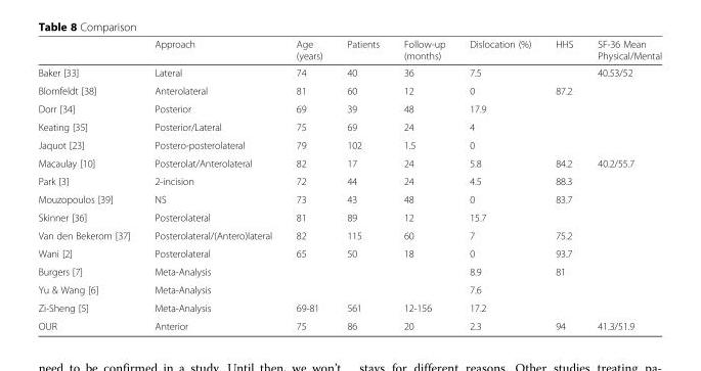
<table><thead><tr><td></td><td>Approach</td><td>Age (years)</td><td>Patients</td><td>Follow-up (months)</td><td>Dislocation (%)</td><td>HHS</td><td>SF-36 Mean Physical/Mental</td></tr></thead><tbody><tr><td>Baker [33]</td><td>Lateral</td><td>74</td><td>40</td><td>36</td><td>7.5</td><td></td><td>40.53/52</td></tr><tr><td>Blomfeldt [38]</td><td>Anterolateral</td><td>81</td><td>60</td><td>12</td><td>0</td><td>87.2</td><td></td></tr><tr><td>Dorr [34]</td><td>Posterior</td><td>69</td><td>39</td><td>48</td><td>17.9</td><td></td><td></td></tr><tr><td>Keating [35]</td><td>Posterior/Lateral</td><td>75</td><td>69</td><td>24</td><td>4</td><td></td><td></td></tr><tr><td>Jaquot [23]</td><td>Postero-posterolateral</td><td>79</td><td>102</td><td>1.5</td><td>0</td><td></td><td></td></tr><tr><td>Macaulay [10]</td><td>Posterolat/Anterolateral</td><td>82</td><td>17</td><td>24</td><td>5.8</td><td>84.2</td><td>40.2/55.7</td></tr><tr><td>Park [3]</td><td>2-incision</td><td>72</td><td>44</td><td>24</td><td>4.5</td><td>88.3</td><td></td></tr><tr><td>Mouzopoulos [39]</td><td>NS</td><td>73</td><td>43</td><td>48</td><td>0</td><td>83.7</td><td></td></tr><tr><td>Skinner [36]</td><td>Posterolateral</td><td>81</td><td>89</td><td>12</td><td>15.7</td><td></td><td></td></tr><tr><td>Van den Bekerom [37]</td><td>Posterolateral/(Antero)lateral</td><td>82</td><td>115</td><td>60</td><td>7</td><td>75.2</td><td></td></tr><tr><td>Wani [2]</td><td>Posterolateral</td><td>65</td><td>50</td><td>18</td><td>0</td><td>93.7</td><td></td></tr><tr><td>Burgers [7]</td><td>Meta-Analysis</td><td></td><td></td><td></td><td>8.9</td><td>81</td><td></td></tr><tr><td>Yu &amp; Wang [6]</td><td>Meta-Analysis</td><td></td><td></td><td></td><td>7.6</td><td></td><td></td></tr><tr><td>Zi-Sheng [5]</td><td>Meta-Analysis</td><td>69-81</td><td>561</td><td>12-156</td><td>17.2</td><td></td><td></td></tr><tr><td>OUR</td><td>Anterior</td><td>75</td><td>86</td><td>20</td><td>2.3</td><td>94</td><td>41.3/51.9</td></tr></tbody></table>